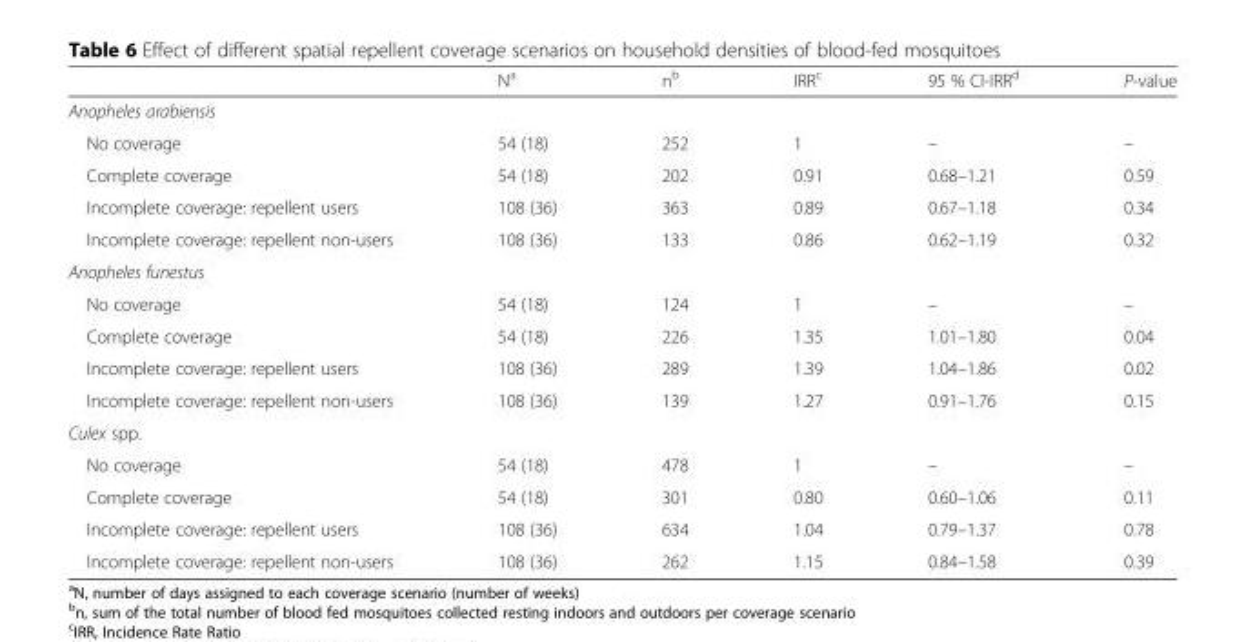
<table><thead><tr><td></td><td>N<sup>a</sup></td><td>n<sup>b</sup></td><td>IRR<sup>c</sup></td><td>95 % CI-IRR<sup>d</sup></td><td>P-value</td></tr></thead><tbody><tr><td colspan="6">Anopheles arabiensis</td></tr><tr><td>No coverage</td><td>54 (18)</td><td>252</td><td>1</td><td>–</td><td>–</td></tr><tr><td>Complete coverage</td><td>54 (18)</td><td>202</td><td>0.91</td><td>0.68–1.21</td><td>0.59</td></tr><tr><td>Incomplete coverage: repellent users</td><td>108 (36)</td><td>363</td><td>0.89</td><td>0.67–1.18</td><td>0.34</td></tr><tr><td>Incomplete coverage: repellent non-users</td><td>108 (36)</td><td>133</td><td>0.86</td><td>0.62–1.19</td><td>0.32</td></tr><tr><td colspan="6">Anopheles funestus</td></tr><tr><td>No coverage</td><td>54 (18)</td><td>124</td><td>1</td><td>–</td><td>–</td></tr><tr><td>Complete coverage</td><td>54 (18)</td><td>226</td><td>1.35</td><td>1.01–1.80</td><td>0.04</td></tr><tr><td>Incomplete coverage: repellent users</td><td>108 (36)</td><td>289</td><td>1.39</td><td>1.04–1.86</td><td>0.02</td></tr><tr><td>Incomplete coverage: repellent non-users</td><td>108 (36)</td><td>139</td><td>1.27</td><td>0.91–1.76</td><td>0.15</td></tr><tr><td colspan="6">Culex spp.</td></tr><tr><td>No coverage</td><td>54 (18)</td><td>478</td><td>1</td><td>–</td><td>–</td></tr><tr><td>Complete coverage</td><td>54 (18)</td><td>301</td><td>0.80</td><td>0.60–1.06</td><td>0.11</td></tr><tr><td>Incomplete coverage: repellent users</td><td>108 (36)</td><td>634</td><td>1.04</td><td>0.79–1.37</td><td>0.78</td></tr><tr><td>Incomplete coverage: repellent non-users</td><td>108 (36)</td><td>262</td><td>1.15</td><td>0.84–1.58</td><td>0.39</td></tr></tbody></table>